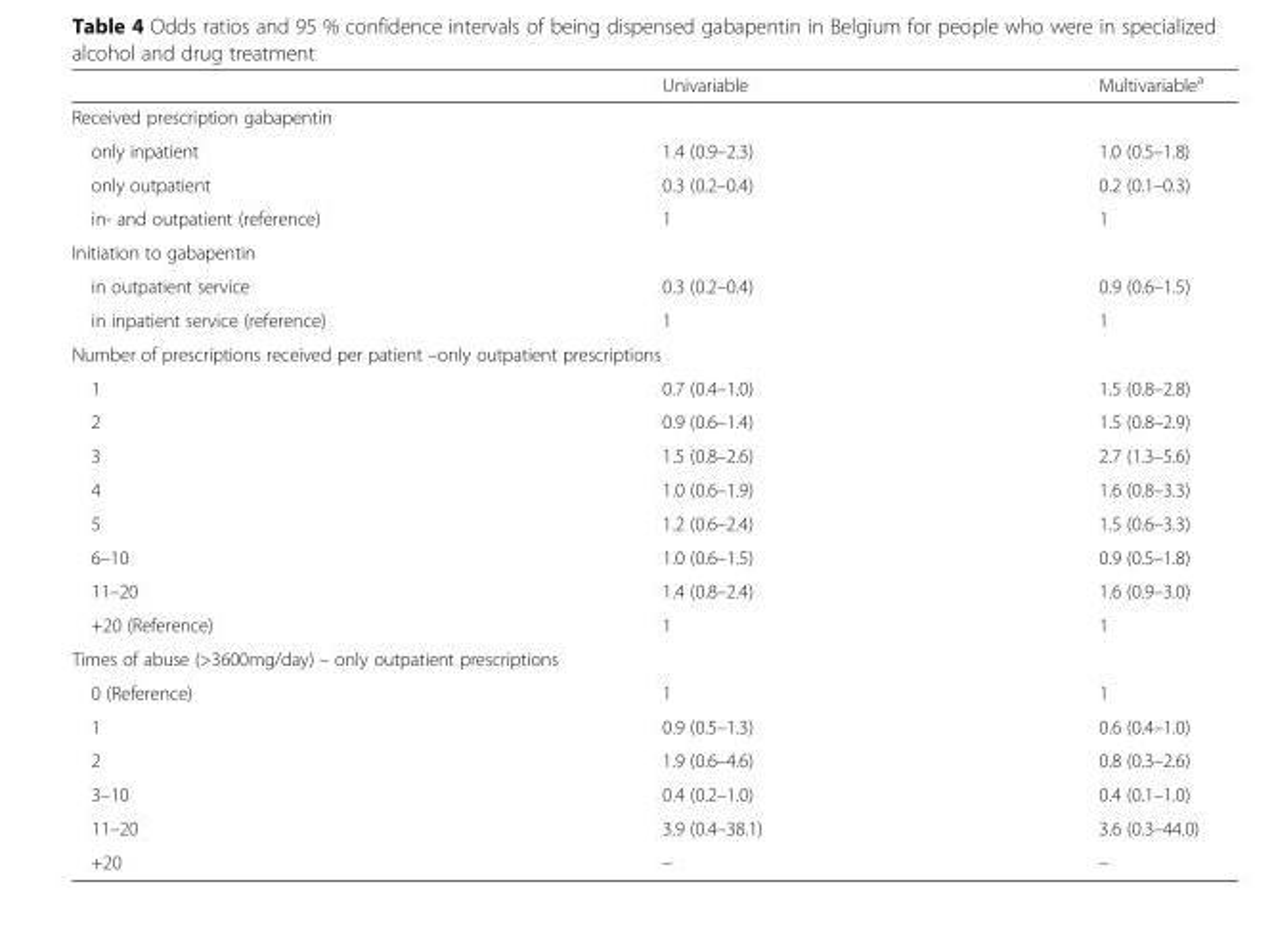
<table><thead><tr><td></td><td>Univariable</td><td>Multivariable<sup>a</sup></td></tr></thead><tbody><tr><td colspan="3">Received prescription gabapentin</td></tr><tr><td>only inpatient</td><td>1.4 (0.9–2.3)</td><td>1.0 (0.5–1.8)</td></tr><tr><td>only outpatient</td><td>0.3 (0.2–0.4)</td><td>0.2 (0.1–0.3)</td></tr><tr><td>in- and outpatient (reference)</td><td>1</td><td>1</td></tr><tr><td colspan="3">Initiation to gabapentin</td></tr><tr><td>in outpatient service</td><td>0.3 (0.2–0.4)</td><td>0.9 (0.6–1.5)</td></tr><tr><td>in inpatient service (reference)</td><td>1</td><td>1</td></tr><tr><td colspan="3">Number of prescriptions received per patient –only outpatient prescriptions</td></tr><tr><td>1</td><td>0.7 (0.4–1.0)</td><td>1.5 (0.8–2.8)</td></tr><tr><td>2</td><td>0.9 (0.6–1.4)</td><td>1.5 (0.8–2.9)</td></tr><tr><td>3</td><td>1.5 (0.8–2.6)</td><td>2.7 (1.3–5.6)</td></tr><tr><td>4</td><td>1.0 (0.6–1.9)</td><td>1.6 (0.8–3.3)</td></tr><tr><td>5</td><td>1.2 (0.6–2.4)</td><td>1.5 (0.6–3.3)</td></tr><tr><td>6–10</td><td>1.0 (0.6–1.5)</td><td>0.9 (0.5–1.8)</td></tr><tr><td>11–20</td><td>1.4 (0.8–2.4)</td><td>1.6 (0.9–3.0)</td></tr><tr><td>+20 (Reference)</td><td>1</td><td>1</td></tr><tr><td colspan="3">Times of abuse (&gt;3600mg/day) – only outpatient prescriptions</td></tr><tr><td>0 (Reference)</td><td>1</td><td>1</td></tr><tr><td>1</td><td>0.9 (0.5–1.3)</td><td>0.6 (0.4–1.0)</td></tr><tr><td>2</td><td>1.9 (0.6–4.6)</td><td>0.8 (0.3–2.6)</td></tr><tr><td>3–10</td><td>0.4 (0.2–1.0)</td><td>0.4 (0.1–1.0)</td></tr><tr><td>11–20</td><td>3.9 (0.4–38.1)</td><td>3.6 (0.3–44.0)</td></tr><tr><td>+20</td><td>–</td><td>–</td></tr></tbody></table>